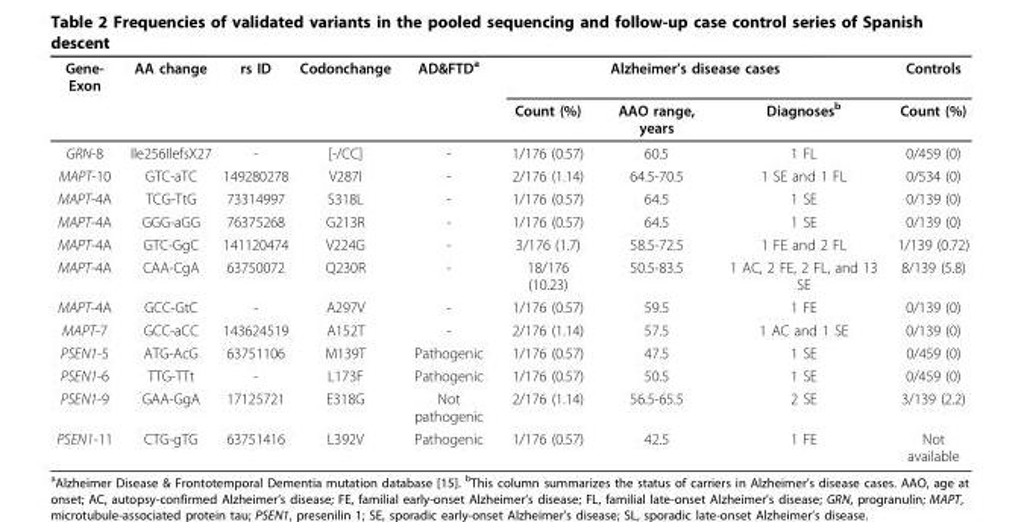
<table><thead><tr><td rowspan="2">Gene- Exon</td><td rowspan="2">AA change</td><td rowspan="2">rs ID</td><td rowspan="2">Codonchange</td><td rowspan="2">AD&amp;FTD<sup>a</sup></td><td colspan="3">Alzheimer’s disease cases</td><td rowspan="2">Controls Count (%)</td></tr><tr><td>Count (%)</td><td>AAO range, years</td><td>Diagnoses<sup>b</sup></td></tr></thead><tbody><tr><td>GRN-8</td><td>Ile256IlefsX27</td><td>-</td><td>[-/CC]</td><td>-</td><td>1/176 (0.57)</td><td>60.5</td><td>1 FL</td><td>0/459 (0)</td></tr><tr><td>MAPT-10</td><td>GTC-aTC</td><td>149280278</td><td>V287I</td><td>-</td><td>2/176 (1.14)</td><td>64.5-70.5</td><td>1 SE and 1 FL</td><td>0/534 (0)</td></tr><tr><td>MAPT-4A</td><td>TCG-TtG</td><td>73314997</td><td>S318L</td><td>-</td><td>1/176 (0.57)</td><td>64.5</td><td>1 SE</td><td>0/139 (0)</td></tr><tr><td>MAPT-4A</td><td>GGG-aGG</td><td>76375268</td><td>G213R</td><td>-</td><td>1/176 (0.57)</td><td>64.5</td><td>1 SE</td><td>0/139 (0)</td></tr><tr><td>MAPT-4A</td><td>GTC-GgC</td><td>141120474</td><td>V224G</td><td>-</td><td>3/176 (1.7)</td><td>58.5-72.5</td><td>1 FE and 2 FL</td><td>1/139 (0.72)</td></tr><tr><td>MAPT-4A</td><td>CAA-CgA</td><td>63750072</td><td>Q230R</td><td>-</td><td>18/176 (10.23)</td><td>50.5-83.5</td><td>1 AC, 2 FE, 2 FL, and 13 SE</td><td>8/139 (5.8)</td></tr><tr><td>MAPT-4A</td><td>GCC-GtC</td><td>-</td><td>A297V</td><td>-</td><td>1/176 (0.57)</td><td>59.5</td><td>1 FE</td><td>0/139 (0)</td></tr><tr><td>MAPT-7</td><td>GCC-aCC</td><td>143624519</td><td>A152T</td><td>-</td><td>2/176 (1.14)</td><td>57.5</td><td>1 AC and 1 SE</td><td>0/139 (0)</td></tr><tr><td>PSEN1-5</td><td>ATG-AcG</td><td>63751106</td><td>M139T</td><td>Pathogenic</td><td>1/176 (0.57)</td><td>47.5</td><td>1 SE</td><td>0/459 (0)</td></tr><tr><td>PSEN1-6</td><td>TTG-TTt</td><td>-</td><td>L173F</td><td>Pathogenic</td><td>1/176 (0.57)</td><td>50.5</td><td>1 SE</td><td>0/459 (0)</td></tr><tr><td>PSEN1-9</td><td>GAA-GgA</td><td>17125721</td><td>E318G</td><td>Not pathogenic</td><td>2/176 (1.14)</td><td>56.5-65.5</td><td>2 SE</td><td>3/139 (2.2)</td></tr><tr><td>PSEN1-11</td><td>CTG-gTG</td><td>63751416</td><td>L392V</td><td>Pathogenic</td><td>1/176 (0.57)</td><td>42.5</td><td>1 FE</td><td>Not available</td></tr></tbody></table>